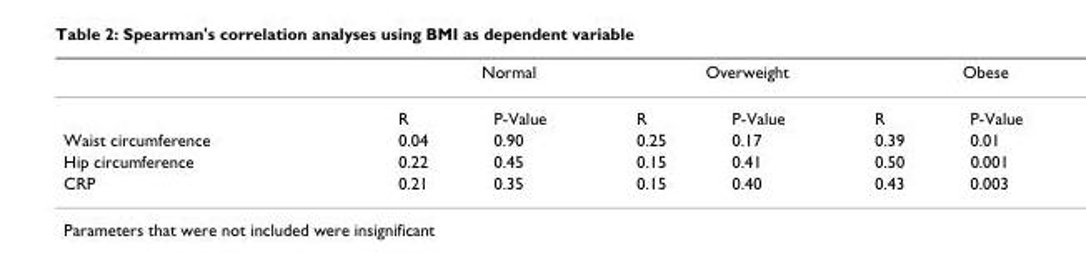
<table><thead><tr><td rowspan="2"></td><td colspan="2">Normal</td><td colspan="2">Overweight</td><td colspan="2">Obese</td></tr><tr><td>R</td><td>P-Value</td><td>R</td><td>P-Value</td><td>R</td><td>P-Value</td></tr></thead><tbody><tr><td>Waist circumference</td><td>0.04</td><td>0.90</td><td>0.25</td><td>0.17</td><td>0.39</td><td>0.01</td></tr><tr><td>Hip circumference</td><td>0.22</td><td>0.45</td><td>0.15</td><td>0.41</td><td>0.50</td><td>0.001</td></tr><tr><td>CRP</td><td>0.21</td><td>0.35</td><td>0.15</td><td>0.40</td><td>0.43</td><td>0.003</td></tr></tbody></table>